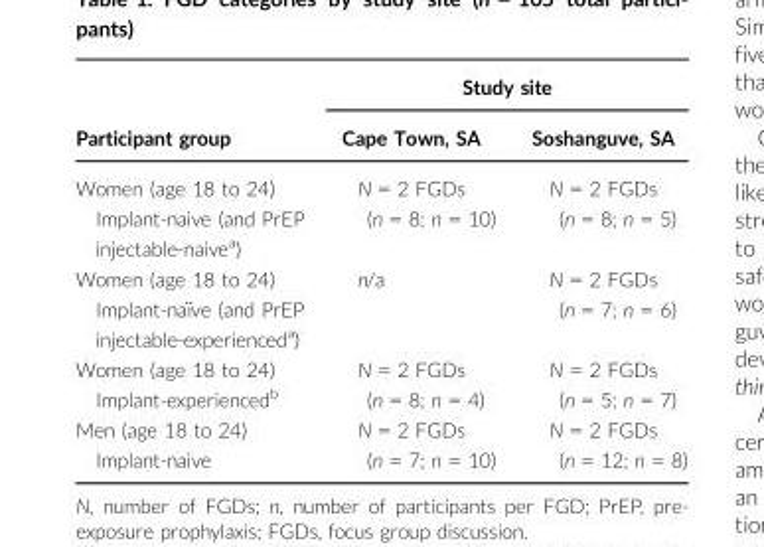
<table><thead><tr><td rowspan="2">Participant group</td><td colspan="2">Study site</td></tr><tr><td>Cape Town, SA</td><td>Soshanguve, SA</td></tr></thead><tbody><tr><td>Women (age 18 to 24) Implant-naive (and PrEP injectable-naive<sup>a</sup>)</td><td>N = 2 FGDs (n = 8; n = 10)</td><td>N = 2 FGDs (n = 8; n = 5)</td></tr><tr><td>Women (age 18 to 24) Implant-na€ıve (and PrEP injectable-experienceda)</td><td>n/a</td><td>N = 2 FGDs (n = 7; n = 6)</td></tr><tr><td>Women (age 18 to 24) Implant-experienced<sup>b</sup></td><td>N = 2 FGDs (n = 8; n = 4)</td><td>N = 2 FGDs (n = 5; n = 7)</td></tr><tr><td>Men (age 18 to 24) Implant-naive</td><td>N = 2 FGDs (n = 7; n = 10)</td><td>N = 2 FGDs (n = 12; n = 8)</td></tr></tbody></table>